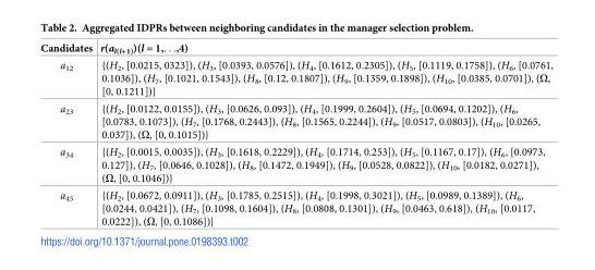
<table><thead><tr><td>Candidates</td><td>r(a<sub>l(l+1)</sub>)(l = 1,. . .,4)</td></tr></thead><tbody><tr><td>a<sub>12</sub></td><td>{(H<sub>2</sub>, [0.0215, 0323]), (H<sub>3</sub>, [0.0393, 0.0576]), (H<sub>4</sub>, [0.1612, 0.2305]), (H<sub>5</sub>, [0.1119, 0.1758]), (H<sub>6</sub>, [0.0761, 0.1036]), (H<sub>7</sub>, [0.1021, 0.1543]), (H<sub>8</sub>, [0.12, 0.1807]), (H<sub>9</sub>, [0.1359, 0.1898]), (H<sub>10</sub>, [0.0385, 0.0701]), (Ω, [0, 0.1211])}</td></tr><tr><td>a<sub>23</sub></td><td>{(H<sub>2</sub>, [0.0122, 0.0155]), (H<sub>3</sub>, [0.0626, 0.093]), (H<sub>4</sub>, [0.1999, 0.2604]), (H<sub>5</sub>, [0.0694, 0.1202]), (H<sub>6</sub>, [0.0783, 0.1073]), (H<sub>7</sub>, [0.1768, 0.2443]), (H<sub>8</sub>, [0.1565, 0.2244]), (H<sub>9</sub>, [0.0517, 0.0803]), (H<sub>10</sub>, [0.0265, 0.037]), (Ω, [0, 0.1015])}</td></tr><tr><td>a<sub>34</sub></td><td>{(H<sub>2</sub>, [0.0015, 0.0035]), (H<sub>3</sub>, [0.1618, 0.2229]), (H<sub>4</sub>, [0.1714, 0.253]), (H<sub>5</sub>, [0.1167, 0.17]), (H<sub>6</sub>, [0.0973, 0.127]), (H<sub>7</sub>, [0.0646, 0.1028]), (H<sub>8</sub>, [0.1472, 0.1949]), (H<sub>9</sub>, [0.0528, 0.0822]), (H<sub>10</sub>, [0.0182, 0.0271]), (Ω, [0, 0.1046])}</td></tr><tr><td>a<sub>45</sub></td><td>{(H<sub>2</sub>, [0.0672, 0.0911]), (H<sub>3</sub>, [0.1785, 0.2515]), (H<sub>4</sub>, [0.1998, 0.3021]), (H<sub>5</sub>, [0.0989, 0.1389]), (H<sub>6</sub>, [0.0244, 0.0421]), (H<sub>7</sub>, [0.1098, 0.1604]), (H<sub>8</sub>, [0.0808, 0.1301]), (H<sub>9</sub>, [0.0463, 0.618]), (H<sub>10</sub>, [0.0117, 0.0222]), (Ω, [0, 0.1086])}</td></tr></tbody></table>